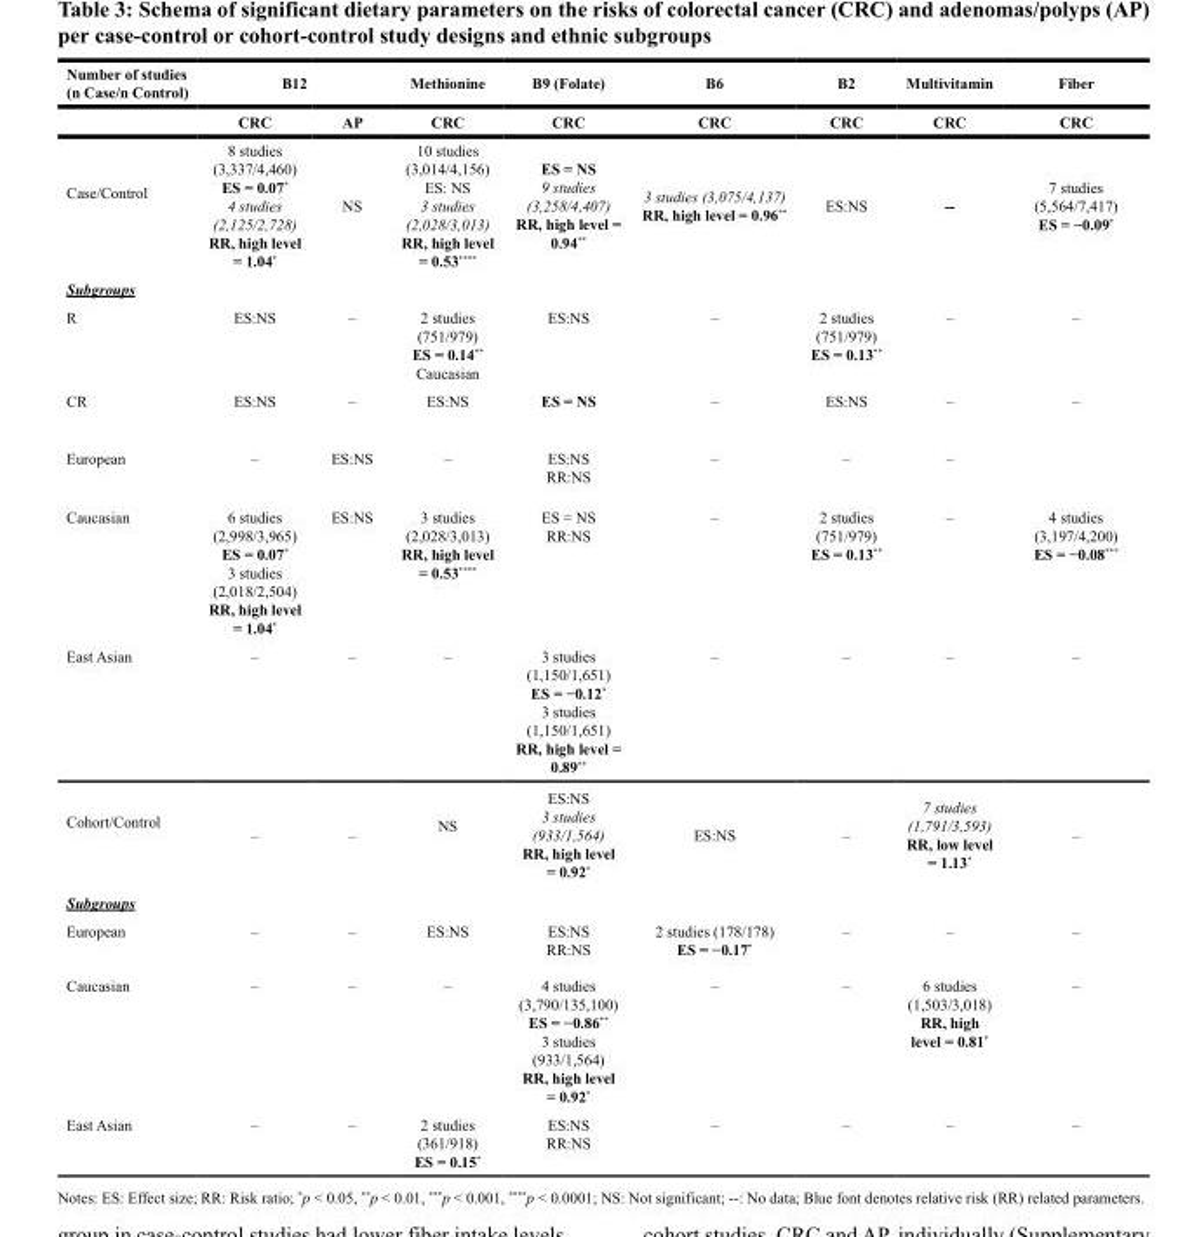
<table><thead><tr><td rowspan="2">Number of studies (n Case/n Control)</td><td colspan="2">B12</td><td rowspan="2">Methionine CRC</td><td rowspan="2">B9 (Folate) CRC</td><td rowspan="2">B6 CRC</td><td rowspan="2">B2 CRC</td><td rowspan="2">Multivitamin CRC</td><td rowspan="2">Fiber CRC</td></tr><tr><td>CRC</td><td>AP</td></tr></thead><tbody><tr><td>Case/Control</td><td>8 studies (3,337/4,460) ES = 0.07* 4 studies (2,125/2,728) RR, high level = 1.04*</td><td>NS</td><td>10 studies (3,014/4,156) ES: NS 3 studies (2,028/3,013) RR, high level = 0.53****</td><td>ES = NS 9 studies (3,258/4,407) RR, high level = 0.94**</td><td>3 studies (3,075/4,137) RR, high level = 0.96**</td><td>ES:NS</td><td>--</td><td>7 studies (5,564/7,417) ES = −0.09*</td></tr><tr><td colspan="9">Subgroups</td></tr><tr><td>R</td><td>ES:NS</td><td>–</td><td>2 studies (751/979) ES = 0.14** Caucasian</td><td>ES:NS</td><td>–</td><td>2 studies (751/979) ES = 0.13**</td><td>–</td><td>–</td></tr><tr><td>CR</td><td>ES:NS</td><td>–</td><td>ES:NS</td><td>ES = NS</td><td>–</td><td>ES:NS</td><td>–</td><td>–</td></tr><tr><td>European</td><td>–</td><td>ES:NS</td><td>–</td><td>ES:NS RR:NS</td><td>–</td><td>–</td><td>–</td><td></td></tr><tr><td>Caucasian</td><td>6 studies (2,998/3,965) ES = 0.07* 3 studies (2,018/2,504) RR, high level = 1.04*</td><td>ES:NS</td><td>3 studies (2,028/3,013) RR, high level = 0.53****</td><td>ES = NS RR:NS</td><td>–</td><td>2 studies (751/979) ES = 0.13**</td><td>–</td><td>4 studies (3,197/4,200) ES = −0.08***</td></tr><tr><td>East Asian</td><td>–</td><td>–</td><td>–</td><td>3 studies (1,150/1,651) ES = −0.12* 3 studies (1,150/1,651) RR, high level = 0.89**</td><td>–</td><td>–</td><td>–</td><td>–</td></tr><tr><td>Cohort/Control</td><td>–</td><td>–</td><td>NS</td><td>ES:NS 3 studies (933/1,564) RR, high level = 0.92*</td><td>ES:NS</td><td>–</td><td>7 studies (1,791/3,593) RR, low level = 1.13*</td><td>–</td></tr><tr><td colspan="9">Subgroups</td></tr><tr><td>European</td><td>–</td><td>–</td><td>ES:NS</td><td>ES:NS RR:NS</td><td>2 studies (178/178) ES = −0.17*</td><td>–</td><td>–</td><td>–</td></tr><tr><td>Caucasian</td><td>–</td><td>–</td><td>–</td><td>4 studies (3,790/135,100) ES = −0.86** 3 studies (933/1,564) RR, high level = 0.92*</td><td>–</td><td>–</td><td>6 studies (1,503/3,018) RR, high level = 0.81*</td><td>–</td></tr><tr><td>East Asian</td><td>–</td><td>–</td><td>2 studies (361/918) ES = 0.15*</td><td>ES:NS RR:NS</td><td>–</td><td>–</td><td>–</td><td>–</td></tr></tbody></table>